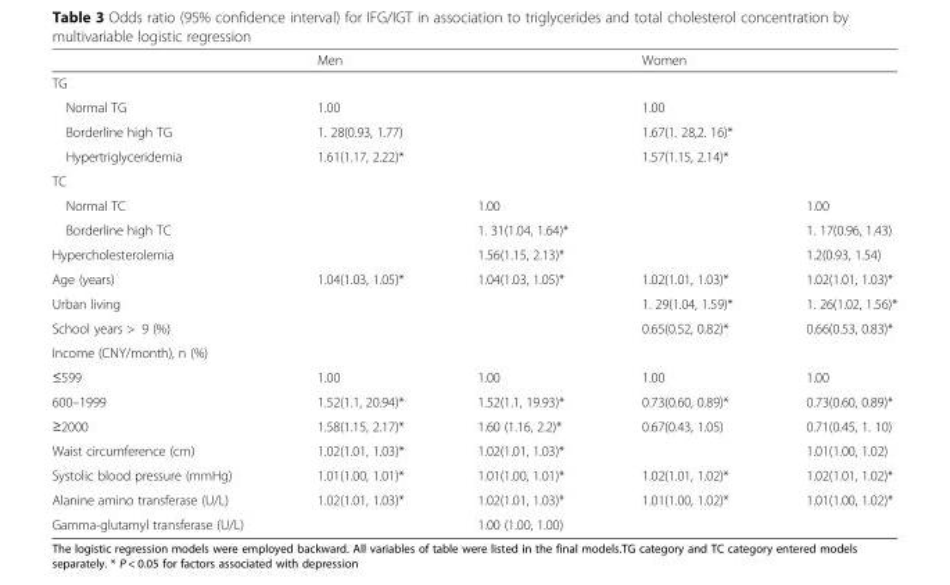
<table><thead><tr><td></td><td colspan="2">Men</td><td colspan="2">Women</td></tr><tr><td colspan="5">TG</td></tr><tr><td>Normal TG</td><td>1.00</td><td></td><td>1.00</td><td></td></tr></thead><tbody><tr><td>Borderline high TG</td><td>1. 28(0.93, 1.77)</td><td></td><td>1.67(1. 28,2. 16)*</td><td></td></tr><tr><td>Hypertriglyceridemia</td><td>1.61(1.17, 2.22)*</td><td></td><td>1.57(1.15, 2.14)*</td><td></td></tr><tr><td colspan="5">TC</td></tr><tr><td>Normal TC</td><td></td><td>1.00</td><td></td><td>1.00</td></tr><tr><td>Borderline high TC</td><td></td><td>1. 31(1.04, 1.64)*</td><td></td><td>1. 17(0.96, 1.43)</td></tr><tr><td>Hypercholesterolemia</td><td></td><td>1.56(1.15, 2.13)*</td><td></td><td>1.2(0.93, 1.54)</td></tr><tr><td>Age (years)</td><td>1.04(1.03, 1.05)*</td><td>1.04(1.03, 1.05)*</td><td>1.02(1.01, 1.03)*</td><td>1.02(1.01, 1.03)*</td></tr><tr><td>Urban living</td><td></td><td></td><td>1. 29(1.04, 1.59)*</td><td>1. 26(1.02, 1.56)*</td></tr><tr><td>School years &gt; 9 (%)</td><td></td><td></td><td>0.65(0.52, 0.82)*</td><td>0.66(0.53, 0.83)*</td></tr><tr><td colspan="5">Income (CNY/month), n (%)</td></tr><tr><td>≤599</td><td>1.00</td><td>1.00</td><td>1.00</td><td>1.00</td></tr><tr><td>600–1999</td><td>1.52(1.1, 20.94)*</td><td>1.52(1.1, 19.93)*</td><td>0.73(0.60, 0.89)*</td><td>0.73(0.60, 0.89)*</td></tr><tr><td>≥2000</td><td>1.58(1.15, 2.17)*</td><td>1.60 (1.16, 2.2)*</td><td>0.67(0.43, 1.05)</td><td>0.71(0.45, 1. 10)</td></tr><tr><td>Waist circumference (cm)</td><td>1.02(1.01, 1.03)*</td><td>1.02(1.01, 1.03)*</td><td></td><td>1.01(1.00, 1.02)</td></tr><tr><td>Systolic blood pressure (mmHg)</td><td>1.01(1.00, 1.01)*</td><td>1.01(1.00, 1.01)*</td><td>1.02(1.01, 1.02)*</td><td>1.02(1.01, 1.02)*</td></tr><tr><td>Alanine amino transferase (U/L)</td><td>1.02(1.01, 1.03)*</td><td>1.02(1.01, 1.03)*</td><td>1.01(1.00, 1.02)*</td><td>1.01(1.00, 1.02)*</td></tr><tr><td>Gamma-glutamyl transferase (U/L)</td><td></td><td>1.00 (1.00, 1.00)</td><td></td><td></td></tr></tbody></table>